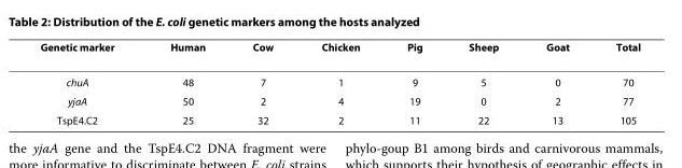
<table><thead><tr><td>Genetic marker</td><td>Human</td><td>Cow</td><td>Chicken</td><td>Pig</td><td>Sheep</td><td>Goat</td><td>Total</td></tr></thead><tbody><tr><td>chuA</td><td>48</td><td>7</td><td>1</td><td>9</td><td>5</td><td>0</td><td>70</td></tr><tr><td>yjaA</td><td>50</td><td>2</td><td>4</td><td>19</td><td>0</td><td>2</td><td>77</td></tr><tr><td>TspE4.C2</td><td>25</td><td>32</td><td>2</td><td>11</td><td>22</td><td>13</td><td>105</td></tr></tbody></table>